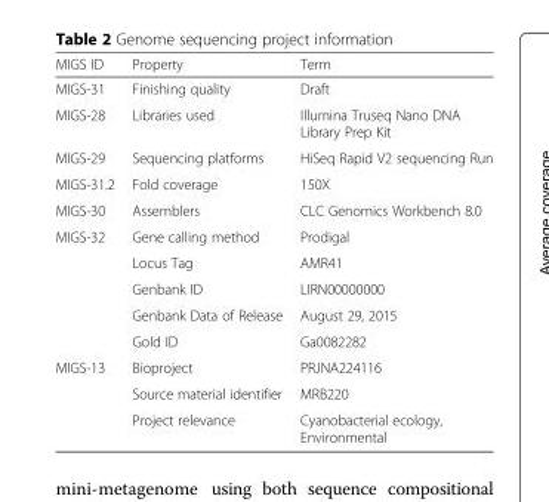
<table><thead><tr><td>MIGS ID</td><td>Property</td><td>Term</td></tr></thead><tbody><tr><td>MIGS-31</td><td>Finishing quality</td><td>Draft</td></tr><tr><td>MIGS-28</td><td>Libraries used</td><td>Illumina Truseq Nano DNA Library Prep Kit</td></tr><tr><td>MIGS-29</td><td>Sequencing platforms</td><td>HiSeq Rapid V2 sequencing Run</td></tr><tr><td>MIGS-31.2</td><td>Fold coverage</td><td>150X</td></tr><tr><td>MIGS-30</td><td>Assemblers</td><td>CLC Genomics Workbench 8.0</td></tr><tr><td rowspan="5">MIGS-32</td><td>Gene calling method</td><td>Prodigal</td></tr><tr><td>Locus Tag</td><td>AMR41</td></tr><tr><td>Genbank ID</td><td>LIRN00000000</td></tr><tr><td>Genbank Data of Release</td><td>August 29, 2015</td></tr><tr><td>Gold ID</td><td>Ga0082282</td></tr><tr><td rowspan="3">MIGS-13</td><td>Bioproject</td><td>PRJNA224116</td></tr><tr><td>Source material identifier</td><td>MRB220</td></tr><tr><td>Project relevance</td><td>Cyanobacterial ecology, Environmental</td></tr></tbody></table>